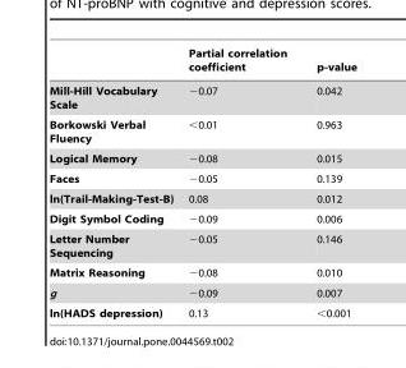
<table><thead><tr><td></td><td>Partial correlation coefficient</td><td>p-value</td></tr></thead><tbody><tr><td>Mill-Hill Vocabulary Scale</td><td>−0.07</td><td>0.042</td></tr><tr><td>Borkowski Verbal Fluency</td><td>&lt;0.01</td><td>0.963</td></tr><tr><td>Logical Memory</td><td>−0.08</td><td>0.015</td></tr><tr><td>Faces</td><td>−0.05</td><td>0.139</td></tr><tr><td>ln(Trail-Making-Test-B)</td><td>0.08</td><td>0.012</td></tr><tr><td>Digit Symbol Coding</td><td>−0.09</td><td>0.006</td></tr><tr><td>Letter Number Sequencing</td><td>−0.05</td><td>0.146</td></tr><tr><td>Matrix Reasoning</td><td>−0.08</td><td>0.010</td></tr><tr><td>g</td><td>−0.09</td><td>0.007</td></tr><tr><td>ln(HADS depression)</td><td>0.13</td><td>&lt;0.001</td></tr></tbody></table>